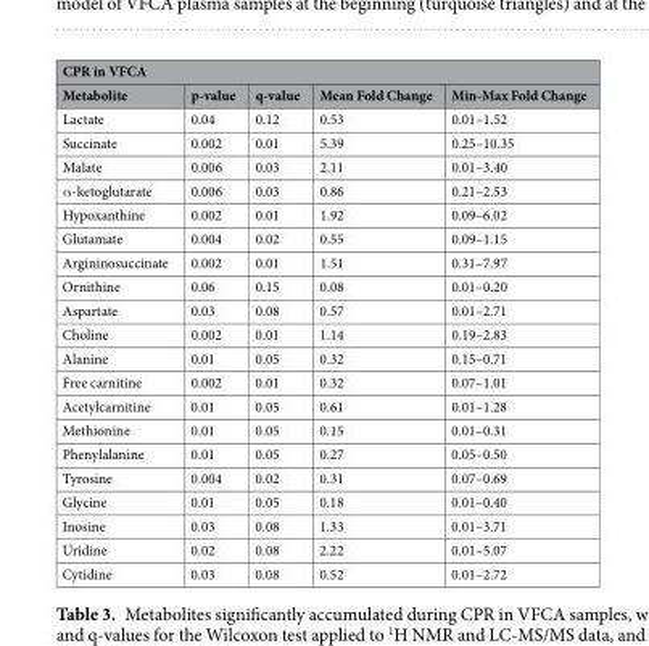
<table><thead><tr><td colspan="5">CPR in VFCA</td></tr><tr><td>Metabolite</td><td>p-value</td><td>q-value</td><td>Mean Fold Change</td><td>Min-Max Fold Change</td></tr></thead><tbody><tr><td>Lactate</td><td>0.04</td><td>0.12</td><td>0.53</td><td>0.01–1.52</td></tr><tr><td>Succinate</td><td>0.002</td><td>0.01</td><td>5.39</td><td>0.25–10.35</td></tr><tr><td>Malate</td><td>0.006</td><td>0.03</td><td>2.11</td><td>0.01–3.40</td></tr><tr><td>α-ketoglutarate</td><td>0.006</td><td>0.03</td><td>0.86</td><td>0.21–2.53</td></tr><tr><td>Hypoxanthine</td><td>0.002</td><td>0.01</td><td>1.92</td><td>0.09–6.02</td></tr><tr><td>Glutamate</td><td>0.004</td><td>0.02</td><td>0.55</td><td>0.09–1.15</td></tr><tr><td>Argininosuccinate</td><td>0.002</td><td>0.01</td><td>1.51</td><td>0.31–7.97</td></tr><tr><td>Ornithine</td><td>0.06</td><td>0.15</td><td>0.08</td><td>0.01–0.20</td></tr><tr><td>Aspartate</td><td>0.03</td><td>0.08</td><td>0.57</td><td>0.01–2.71</td></tr><tr><td>Choline</td><td>0.002</td><td>0.01</td><td>1.14</td><td>0.19–2.83</td></tr><tr><td>Alanine</td><td>0.01</td><td>0.05</td><td>0.32</td><td>0.15–0.71</td></tr><tr><td>Free carnitine</td><td>0.002</td><td>0.01</td><td>0.32</td><td>0.07–1.01</td></tr><tr><td>Acetylcarnitine</td><td>0.01</td><td>0.05</td><td>0.61</td><td>0.01–1.28</td></tr><tr><td>Methionine</td><td>0.01</td><td>0.05</td><td>0.15</td><td>0.01–0.31</td></tr><tr><td>Phenylalanine</td><td>0.01</td><td>0.05</td><td>0.27</td><td>0.05–0.50</td></tr><tr><td>Tyrosine</td><td>0.004</td><td>0.02</td><td>0.31</td><td>0.07–0.69</td></tr><tr><td>Glycine</td><td>0.01</td><td>0.05</td><td>0.18</td><td>0.01–0.40</td></tr><tr><td>Inosine</td><td>0.03</td><td>0.08</td><td>1.33</td><td>0.01–3.71</td></tr><tr><td>Uridine</td><td>0.02</td><td>0.08</td><td>2.22</td><td>0.01–5.07</td></tr><tr><td>Cytidine</td><td>0.03</td><td>0.08</td><td>0.52</td><td>0.01–2.72</td></tr></tbody></table>